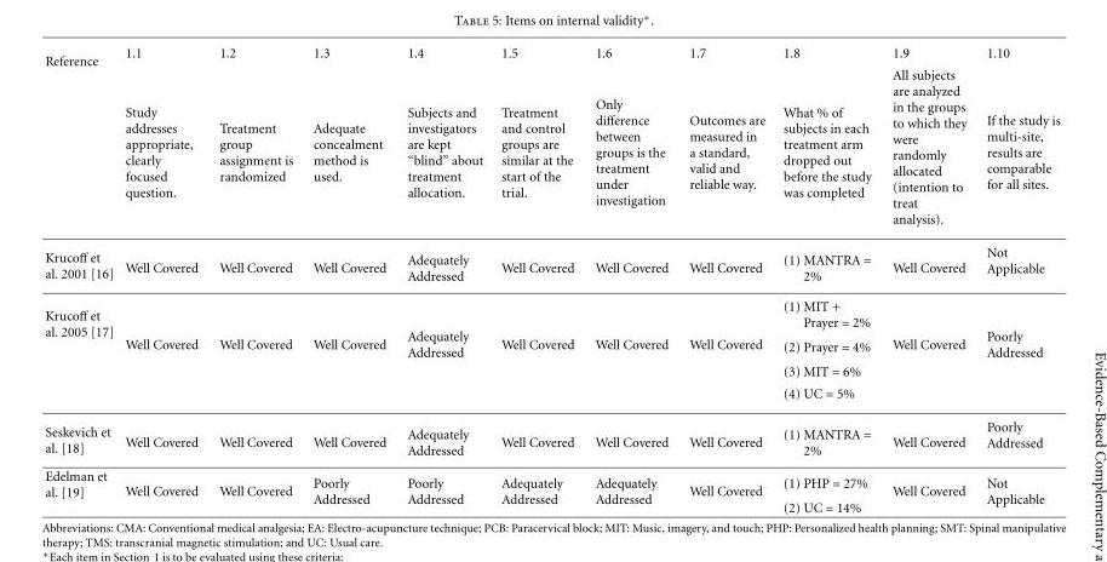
<table><tbody><tr><td rowspan="2">Reference</td><td>1.1</td><td>1.2</td><td>1.3</td><td>1.4</td><td>1.5</td><td>1.6</td><td>1.7</td><td>1.8</td><td>1.9</td><td>1.10</td></tr><tr><td>Study addresses appropriate, clearly focused question.</td><td>Treatment group assignment is randomized</td><td>Adequate concealment method is used.</td><td>Subjects and investigators are kept “blind” about treatment allocation.</td><td>Treatment and control groups are similar at the start of the trial.</td><td>Only difference between groups is the treatment under investigation</td><td>Outcomes are measured in a standard, valid and reliable way.</td><td>What % of subjects in each treatment arm dropped out before the study was completed</td><td>All subjects are analyzed in the groups to which they were randomly allocated (intention to treat analysis).</td><td>If the study is multi-site, results are comparable for all sites.</td></tr><tr><td>Krucoff et al. 2001 [16]</td><td>Well Covered</td><td>Well Covered</td><td>Well Covered</td><td>Adequately Addressed</td><td>Well Covered</td><td>Well Covered</td><td>Well Covered</td><td>(1) MANTRA = 2%</td><td>Well Covered</td><td>Not Applicable</td></tr><tr><td rowspan="4">Krucoff et al. 2005 [17]</td><td rowspan="4">Well Covered</td><td rowspan="4">Well Covered</td><td rowspan="4">Well Covered</td><td rowspan="4">Adequately Addressed</td><td rowspan="4">Well Covered</td><td rowspan="4">Well Covered</td><td rowspan="4">Well Covered</td><td>(1) MIT + Prayer = 2%</td><td rowspan="4">Well Covered</td><td rowspan="4">Poorly Addressed</td></tr><tr><td>(2) Prayer = 4%</td></tr><tr><td>(3) MIT = 6%</td></tr><tr><td>(4) UC = 5%</td></tr><tr><td>Seskevich et al. [18]</td><td>Well Covered</td><td>Well Covered</td><td>Well Covered</td><td>Adequately Addressed</td><td>Well Covered</td><td>Well Covered</td><td>Well Covered</td><td>(1) MANTRA = 2%</td><td>Well Covered</td><td>Poorly Addressed</td></tr><tr><td rowspan="2">Edelman et al. [19]</td><td rowspan="2">Well Covered</td><td rowspan="2">Well Covered</td><td rowspan="2">Poorly Addressed</td><td rowspan="2">Poorly Addressed</td><td rowspan="2">Adequately Addressed</td><td rowspan="2">Adequately Addressed</td><td rowspan="2">Well Covered</td><td>(1) PHP = 27%</td><td rowspan="2">Well Covered</td><td rowspan="2">Not Applicable</td></tr><tr><td>(2) UC = 14%</td></tr></tbody></table>